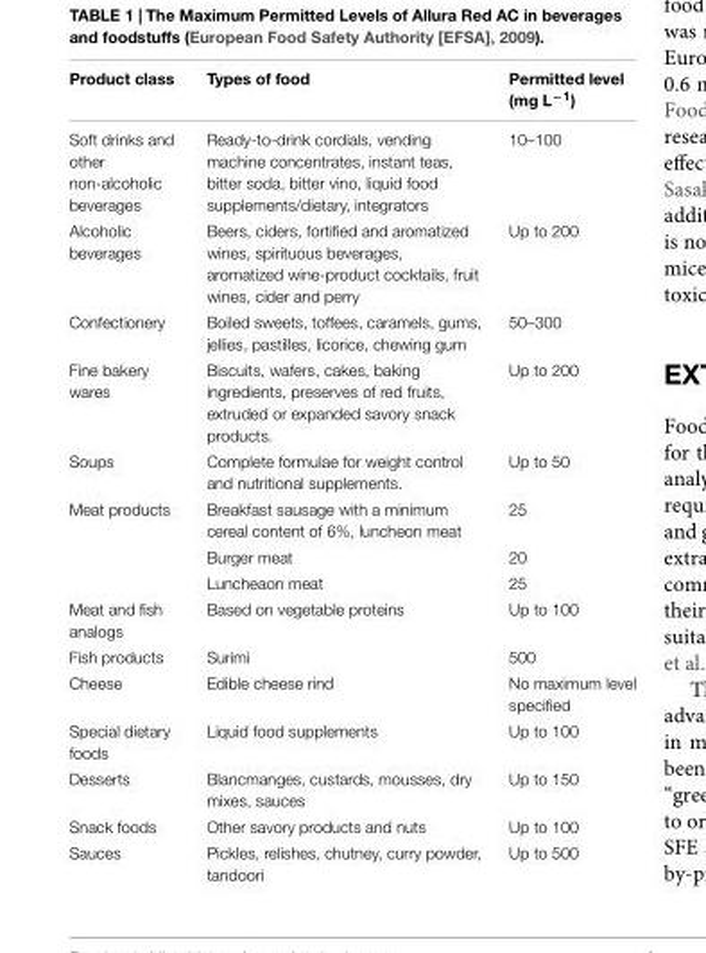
<table><thead><tr><td>Product class</td><td>Types of food</td><td>Permitted level (mg L<sup>−1</sup>)</td></tr></thead><tbody><tr><td>Soft drinks and other non-alcoholic beverages</td><td>Ready-to-drink cordials, vending machine concentrates, instant teas, bitter soda, bitter vino, liquid food supplements/dietary, integrators</td><td>10–100</td></tr><tr><td>Alcoholic beverages</td><td>Beers, ciders, fortified and aromatized wines, spirituous beverages, aromatized wine-product cocktails, fruit wines, cider and perry</td><td>Up to 200</td></tr><tr><td>Confectionery</td><td>Boiled sweets, toffees, caramels, gums, jellies, pastilles, licorice, chewing gum</td><td>50–300</td></tr><tr><td>Fine bakery wares</td><td>Biscuits, wafers, cakes, baking ingredients, preserves of red fruits, extruded or expanded savory snack products.</td><td>Up to 200</td></tr><tr><td>Soups</td><td>Complete formulae for weight control and nutritional supplements.</td><td>Up to 50</td></tr><tr><td rowspan="3">Meat products</td><td>Breakfast sausage with a minimum cereal content of 6%, luncheon meat</td><td>25</td></tr><tr><td>Burger meat</td><td>20</td></tr><tr><td>Luncheaon meat</td><td>25</td></tr><tr><td>Meat and fish analogs</td><td>Based on vegetable proteins</td><td>Up to 100</td></tr><tr><td>Fish products</td><td>Surimi</td><td>500</td></tr><tr><td>Cheese</td><td>Edible cheese rind</td><td>No maximum level specified</td></tr><tr><td>Special dietary foods</td><td>Liquid food supplements</td><td>Up to 100</td></tr><tr><td>Desserts</td><td>Blancmanges, custards, mousses, dry mixes, sauces</td><td>Up to 150</td></tr><tr><td>Snack foods</td><td>Other savory products and nuts</td><td>Up to 100</td></tr><tr><td>Sauces</td><td>Pickles, relishes, chutney, curry powder, tandoori</td><td>Up to 500</td></tr></tbody></table>